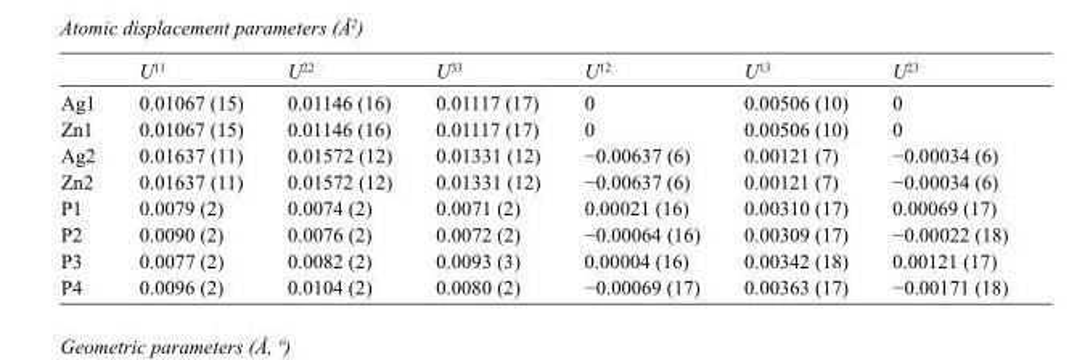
<table><thead><tr><td></td><td>U<sup>11</sup></td><td>U<sup>22</sup></td><td>U<sup>33</sup></td><td>U<sup>12</sup></td><td>U<sup>13</sup></td><td>U<sup>23</sup></td></tr></thead><tbody><tr><td>Ag1</td><td>0.01067 (15)</td><td>0.01146 (16)</td><td>0.01117 (17)</td><td>0</td><td>0.00506 (10)</td><td>0</td></tr><tr><td>Zn1</td><td>0.01067 (15)</td><td>0.01146 (16)</td><td>0.01117 (17)</td><td>0</td><td>0.00506 (10)</td><td>0</td></tr><tr><td>Ag2</td><td>0.01637 (11)</td><td>0.01572 (12)</td><td>0.01331 (12)</td><td>−0.00637 (6)</td><td>0.00121 (7)</td><td>−0.00034 (6)</td></tr><tr><td>Zn2</td><td>0.01637 (11)</td><td>0.01572 (12)</td><td>0.01331 (12)</td><td>−0.00637 (6)</td><td>0.00121 (7)</td><td>−0.00034 (6)</td></tr><tr><td>P1</td><td>0.0079 (2)</td><td>0.0074 (2)</td><td>0.0071 (2)</td><td>0.00021 (16)</td><td>0.00310 (17)</td><td>0.00069 (17)</td></tr><tr><td>P2</td><td>0.0090 (2)</td><td>0.0076 (2)</td><td>0.0072 (2)</td><td>−0.00064 (16)</td><td>0.00309 (17)</td><td>−0.00022 (18)</td></tr><tr><td>P3</td><td>0.0077 (2)</td><td>0.0082 (2)</td><td>0.0093 (3)</td><td>0.00004 (16)</td><td>0.00342 (18)</td><td>0.00121 (17)</td></tr><tr><td>P4</td><td>0.0096 (2)</td><td>0.0104 (2)</td><td>0.0080 (2)</td><td>−0.00069 (17)</td><td>0.00363 (17)</td><td>−0.00171 (18)</td></tr></tbody></table>